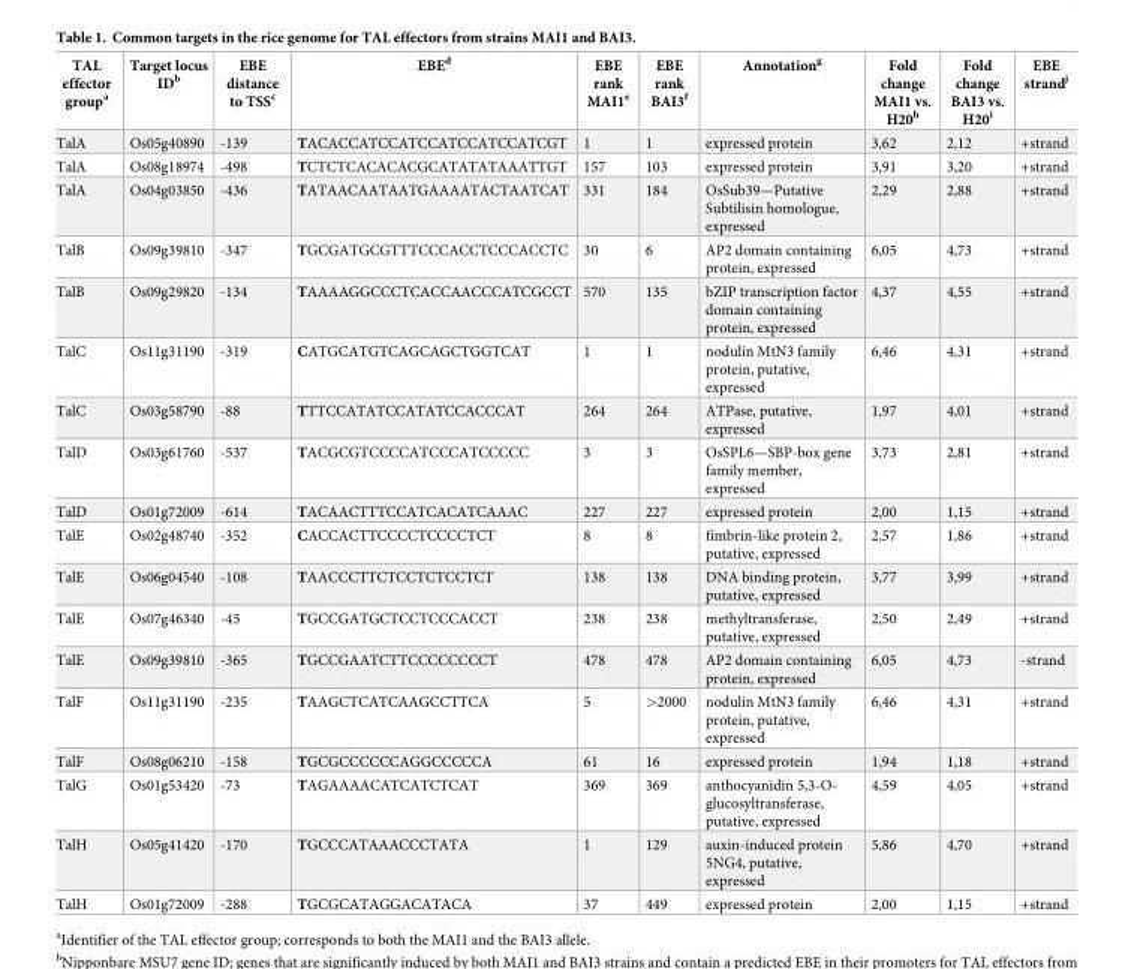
<table><thead><tr><td>TAL effector group<sup>a</sup></td><td>Target locus ID<sup>b</sup></td><td>EBE distance to TSS<sup>c</sup></td><td>EBE<sup>d</sup></td><td>EBE rank MAI1<sup>e</sup></td><td>EBE rank BAI3<sup>f</sup></td><td>Annotation<sup>g</sup></td><td>Fold change MAI1 vs. H20<sup>h</sup></td><td>Fold change BAI3 vs. H20<sup>i</sup></td><td>EBE strand<sup>j</sup></td></tr></thead><tbody><tr><td>TalA</td><td>Os05g40890</td><td>-139</td><td>TACACCATCCATCCATCCATCCATCGT</td><td>1</td><td>1</td><td>expressed protein</td><td>3,62</td><td>2,12</td><td>+strand</td></tr><tr><td>TalA</td><td>Os08g18974</td><td>-498</td><td>TCTCTCACACACGCATATATAAATTGT</td><td>157</td><td>103</td><td>expressed protein</td><td>3,91</td><td>3,20</td><td>+strand</td></tr><tr><td>TalA</td><td>Os04g03850</td><td>-436</td><td>TATAACAATAATGAAAATACTAATCAT</td><td>331</td><td>184</td><td>OsSub39—Putative Subtilisin homologue, expressed</td><td>2,29</td><td>2,88</td><td>+strand</td></tr><tr><td>TalB</td><td>Os09g39810</td><td>-347</td><td>TGCGATGCGTTTCCCACCTCCCACCTC</td><td>30</td><td>6</td><td>AP2 domain containing protein, expressed</td><td>6,05</td><td>4,73</td><td>+strand</td></tr><tr><td>TalB</td><td>Os09g29820</td><td>-134</td><td>TAAAAGGCCCTCACCAACCCATCGCCT</td><td>570</td><td>135</td><td>bZIP transcription factor domain containing protein, expressed</td><td>4,37</td><td>4,55</td><td>+strand</td></tr><tr><td>TalC</td><td>Os11g31190</td><td>-319</td><td>CATGCATGTCAGCAGCTGGTCAT</td><td>1</td><td>1</td><td>nodulin MtN3 family protein, putative, expressed</td><td>6,46</td><td>4,31</td><td>+strand</td></tr><tr><td>TalC</td><td>Os03g58790</td><td>-88</td><td>TTTCCATATCCATATCCACCCAT</td><td>264</td><td>264</td><td>ATPase, putative, expressed</td><td>1,97</td><td>4,01</td><td>+strand</td></tr><tr><td>TalD</td><td>Os03g61760</td><td>-537</td><td>TACGCGTCCCCATCCCATCCCCC</td><td>3</td><td>3</td><td>OsSPL6—SBP-box gene family member, expressed</td><td>3,73</td><td>2,81</td><td>+strand</td></tr><tr><td>TalD</td><td>Os01g72009</td><td>-614</td><td>TACAACTTTCCATCACATCAAAC</td><td>227</td><td>227</td><td>expressed protein</td><td>2,00</td><td>1,15</td><td>+strand</td></tr><tr><td>TalE</td><td>Os02g48740</td><td>-352</td><td>CACCACTTCCCCTCCCCTCT</td><td>8</td><td>8</td><td>fimbrin-like protein 2, putative, expressed</td><td>2,57</td><td>1,86</td><td>+strand</td></tr><tr><td>TalE</td><td>Os06g04540</td><td>-108</td><td>TAACCCTTCTCCTCTCCTCT</td><td>138</td><td>138</td><td>DNA binding protein, putative, expressed</td><td>3,77</td><td>3,99</td><td>+strand</td></tr><tr><td>TalE</td><td>Os07g46340</td><td>-45</td><td>TGCCGATGCTCCTCCCACCT</td><td>238</td><td>238</td><td>methyltransferase, putative, expressed</td><td>2,50</td><td>2,49</td><td>+strand</td></tr><tr><td>TalE</td><td>Os09g39810</td><td>-365</td><td>TGCCGAATCTTCCCCCCCCT</td><td>478</td><td>478</td><td>AP2 domain containing protein, expressed</td><td>6,05</td><td>4,73</td><td>-strand</td></tr><tr><td>TalF</td><td>Os11g31190</td><td>-235</td><td>TAAGCTCATCAAGCCTTCA</td><td>5</td><td>&gt;2000</td><td>nodulin MtN3 family protein, putative, expressed</td><td>6,46</td><td>4,31</td><td>+strand</td></tr><tr><td>TalF</td><td>Os08g06210</td><td>-158</td><td>TGCGCCCCCCAGGCCCCCA</td><td>61</td><td>16</td><td>expressed protein</td><td>1,94</td><td>1,18</td><td>+strand</td></tr><tr><td>TalG</td><td>Os01g53420</td><td>-73</td><td>TAGAAAACATCATCTCAT</td><td>369</td><td>369</td><td>anthocyanidin 5,3-O- glucosyltransferase, putative, expressed</td><td>4,59</td><td>4,05</td><td>+strand</td></tr><tr><td>TalH</td><td>Os05g41420</td><td>-170</td><td>TGCCCATAAACCCTATA</td><td>1</td><td>129</td><td>auxin-induced protein 5NG4, putative, expressed</td><td>5,86</td><td>4,70</td><td>+strand</td></tr><tr><td>TalH</td><td>Os01g72009</td><td>-288</td><td>TGCGCATAGGACATACA</td><td>37</td><td>449</td><td>expressed protein</td><td>2,00</td><td>1,15</td><td>+strand</td></tr></tbody></table>